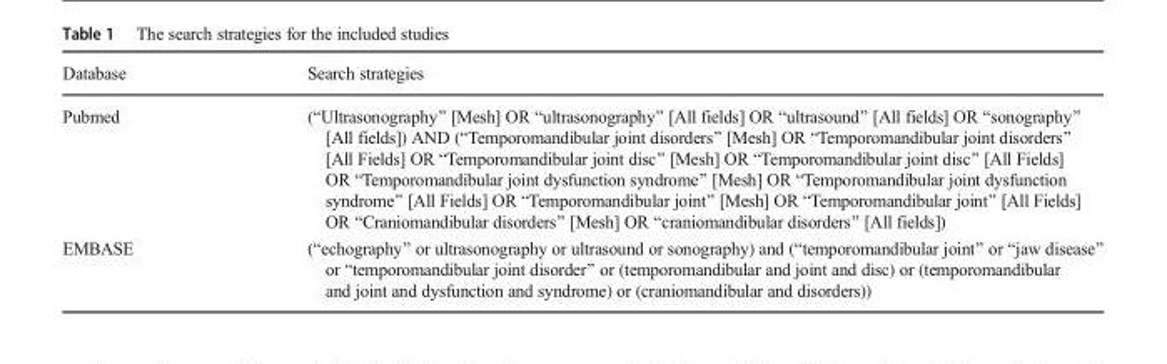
<table><thead><tr><td>Database</td><td>Search strategies</td></tr></thead><tbody><tr><td>Pubmed</td><td>(“Ultrasonography” [Mesh] OR “ultrasonography” [All fields] OR “ultrasound” [All fields] OR “sonography” [All fields]) AND (“Temporomandibular joint disorders” [Mesh] OR “Temporomandibular joint disorders” [All Fields] OR “Temporomandibular joint disc” [Mesh] OR “Temporomandibular joint disc” [All Fields] OR “Temporomandibular joint dysfunction syndrome” [Mesh] OR “Temporomandibular joint dysfunction syndrome” [All Fields] OR “Temporomandibular joint” [Mesh] OR “Temporomandibular joint” [All Fields] OR “Craniomandibular disorders” [Mesh] OR “craniomandibular disorders” [All fields])</td></tr><tr><td>EMBASE</td><td>(“echography” or ultrasonography or ultrasound or sonography) and (“temporomandibular joint” or “jaw disease” or “temporomandibular joint disorder” or (temporomandibular and joint and disc) or (temporomandibular and joint and dysfunction and syndrome) or (craniomandibular and disorders))</td></tr></tbody></table>